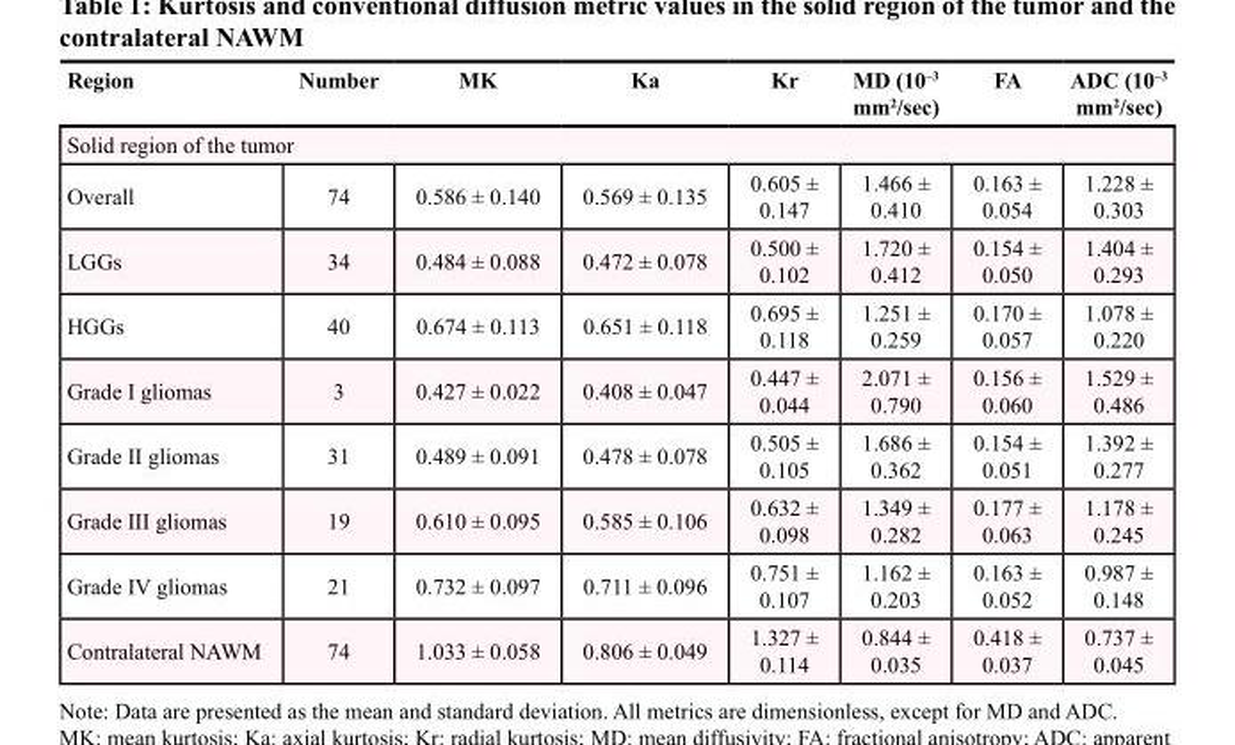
<table><thead><tr><td>Region</td><td>Number</td><td>MK</td><td>Ka</td><td>Kr</td><td>MD (10<sup>–3</sup> mm<sup>2</sup>/sec)</td><td>FA</td><td>ADC (10<sup>–3</sup> mm<sup>2</sup>/sec)</td></tr></thead><tbody><tr><td colspan="8">Solid region of the tumor</td></tr><tr><td>Overall</td><td>74</td><td>0.586 ± 0.140</td><td>0.569 ± 0.135</td><td>0.605 ± 0.147</td><td>1.466 ± 0.410</td><td>0.163 ± 0.054</td><td>1.228 ± 0.303</td></tr><tr><td>LGGs</td><td>34</td><td>0.484 ± 0.088</td><td>0.472 ± 0.078</td><td>0.500 ± 0.102</td><td>1.720 ± 0.412</td><td>0.154 ± 0.050</td><td>1.404 ± 0.293</td></tr><tr><td>HGGs</td><td>40</td><td>0.674 ± 0.113</td><td>0.651 ± 0.118</td><td>0.695 ± 0.118</td><td>1.251 ± 0.259</td><td>0.170 ± 0.057</td><td>1.078 ± 0.220</td></tr><tr><td>Grade I gliomas</td><td>3</td><td>0.427 ± 0.022</td><td>0.408 ± 0.047</td><td>0.447 ± 0.044</td><td>2.071 ± 0.790</td><td>0.156 ± 0.060</td><td>1.529 ± 0.486</td></tr><tr><td>Grade II gliomas</td><td>31</td><td>0.489 ± 0.091</td><td>0.478 ± 0.078</td><td>0.505 ± 0.105</td><td>1.686 ± 0.362</td><td>0.154 ± 0.051</td><td>1.392 ± 0.277</td></tr><tr><td>Grade III gliomas</td><td>19</td><td>0.610 ± 0.095</td><td>0.585 ± 0.106</td><td>0.632 ± 0.098</td><td>1.349 ± 0.282</td><td>0.177 ± 0.063</td><td>1.178 ± 0.245</td></tr><tr><td>Grade IV gliomas</td><td>21</td><td>0.732 ± 0.097</td><td>0.711 ± 0.096</td><td>0.751 ± 0.107</td><td>1.162 ± 0.203</td><td>0.163 ± 0.052</td><td>0.987 ± 0.148</td></tr><tr><td>Contralateral NAWM</td><td>74</td><td>1.033 ± 0.058</td><td>0.806 ± 0.049</td><td>1.327 ± 0.114</td><td>0.844 ± 0.035</td><td>0.418 ± 0.037</td><td>0.737 ± 0.045</td></tr></tbody></table>